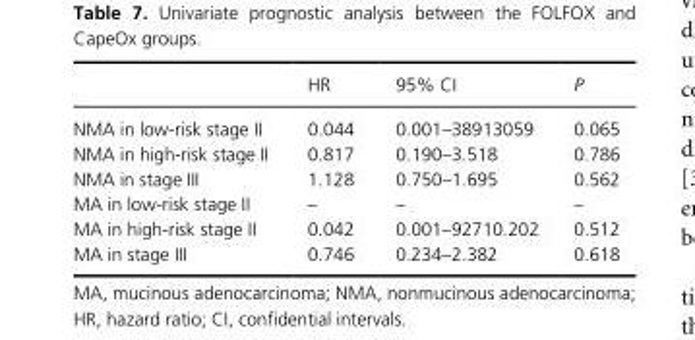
<table><thead><tr><td></td><td>HR</td><td>95% CI</td><td>P</td></tr></thead><tbody><tr><td>NMA in low- risk stage II</td><td>0.044</td><td>0.001–38913059</td><td>0.065</td></tr><tr><td>NMA in high- risk stage II</td><td>0.817</td><td>0.190–3.518</td><td>0.786</td></tr><tr><td>NMA in stage III</td><td>1.128</td><td>0.750–1.695</td><td>0.562</td></tr><tr><td>MA in low- risk stage II</td><td>–</td><td>–</td><td>–</td></tr><tr><td>MA in high- risk stage II</td><td>0.042</td><td>0.001–92710.202</td><td>0.512</td></tr><tr><td>MA in stage III</td><td>0.746</td><td>0.234–2.382</td><td>0.618</td></tr></tbody></table>